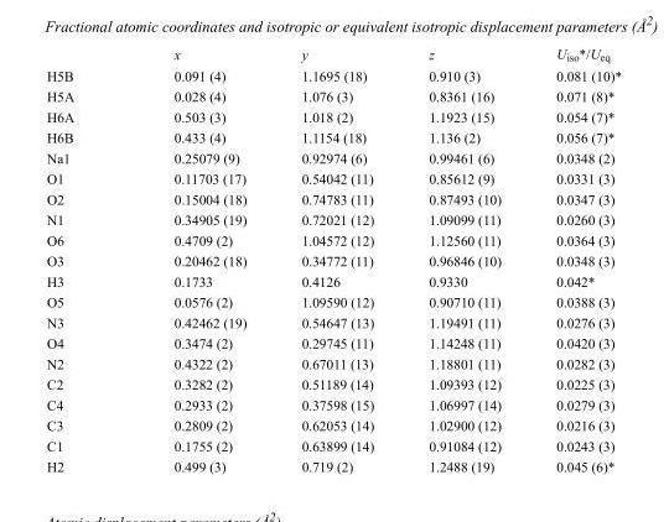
<table><thead><tr><td></td><td>x</td><td>y</td><td>z</td><td>U<sub>iso</sub>*/U<sub>eq</sub></td></tr></thead><tbody><tr><td>H5B</td><td>0.091 (4)</td><td>1.1695 (18)</td><td>0.910 (3)</td><td>0.081 (10)*</td></tr><tr><td>H5A</td><td>0.028 (4)</td><td>1.076 (3)</td><td>0.8361 (16)</td><td>0.071 (8)*</td></tr><tr><td>H6A</td><td>0.503 (3)</td><td>1.018 (2)</td><td>1.1923 (15)</td><td>0.054 (7)*</td></tr><tr><td>H6B</td><td>0.433 (4)</td><td>1.1154 (18)</td><td>1.136 (2)</td><td>0.056 (7)*</td></tr><tr><td>Na1</td><td>0.25079 (9)</td><td>0.92974 (6)</td><td>0.99461 (6)</td><td>0.0348 (2)</td></tr><tr><td>O1</td><td>0.11703 (17)</td><td>0.54042 (11)</td><td>0.85612 (9)</td><td>0.0331 (3)</td></tr><tr><td>O2</td><td>0.15004 (18)</td><td>0.74783 (11)</td><td>0.87493 (10)</td><td>0.0347 (3)</td></tr><tr><td>N1</td><td>0.34905 (19)</td><td>0.72021 (12)</td><td>1.09099 (11)</td><td>0.0260 (3)</td></tr><tr><td>O6</td><td>0.4709 (2)</td><td>1.04572 (12)</td><td>1.12560 (11)</td><td>0.0364 (3)</td></tr><tr><td>O3</td><td>0.20462 (18)</td><td>0.34772 (11)</td><td>0.96846 (10)</td><td>0.0348 (3)</td></tr><tr><td>H3</td><td>0.1733</td><td>0.4126</td><td>0.9330</td><td>0.042*</td></tr><tr><td>O5</td><td>0.0576 (2)</td><td>1.09590 (12)</td><td>0.90710 (11)</td><td>0.0388 (3)</td></tr><tr><td>N3</td><td>0.42462 (19)</td><td>0.54647 (13)</td><td>1.19491 (11)</td><td>0.0276 (3)</td></tr><tr><td>O4</td><td>0.3474 (2)</td><td>0.29745 (11)</td><td>1.14248 (11)</td><td>0.0420 (3)</td></tr><tr><td>N2</td><td>0.4322 (2)</td><td>0.67011 (13)</td><td>1.18801 (11)</td><td>0.0282 (3)</td></tr><tr><td>C2</td><td>0.3282 (2)</td><td>0.51189 (14)</td><td>1.09393 (12)</td><td>0.0225 (3)</td></tr><tr><td>C4</td><td>0.2933 (2)</td><td>0.37598 (15)</td><td>1.06997 (14)</td><td>0.0279 (3)</td></tr><tr><td>C3</td><td>0.2809 (2)</td><td>0.62053 (14)</td><td>1.02900 (12)</td><td>0.0216 (3)</td></tr><tr><td>C1</td><td>0.1755 (2)</td><td>0.63899 (14)</td><td>0.91084 (12)</td><td>0.0243 (3)</td></tr><tr><td>H2</td><td>0.499 (3)</td><td>0.719 (2)</td><td>1.2488 (19)</td><td>0.045 (6)*</td></tr></tbody></table>